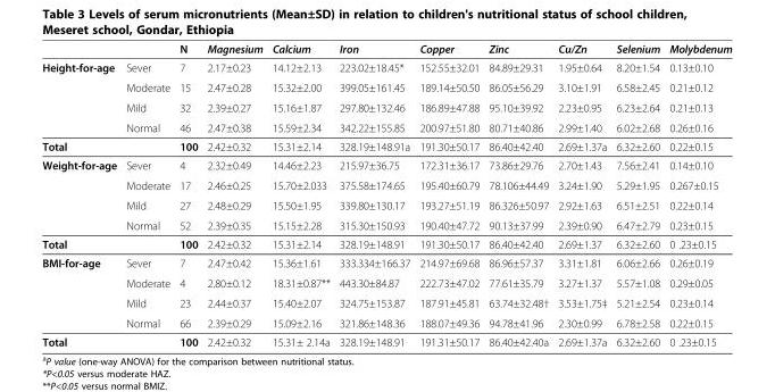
<table><thead><tr><td></td><td></td><td>N</td><td>Magnesium</td><td>Calcium</td><td>Iron</td><td>Copper</td><td>Zinc</td><td>Cu/Zn</td><td>Selenium</td><td>Molybdenum</td></tr></thead><tbody><tr><td rowspan="4">Height-for-age</td><td>Sever</td><td>7</td><td>2.17±0.23</td><td>14.12±2.13</td><td>223.02±18.45*</td><td>152.55±32.01</td><td>84.89±29.31</td><td>1.95±0.64</td><td>8.20±1.54</td><td>0.13±0.10</td></tr><tr><td>Moderate</td><td>15</td><td>2.47±0.28</td><td>15.32±2.00</td><td>399.05±161.45</td><td>189.14±50.50</td><td>86.05±56.29</td><td>3.10±1.91</td><td>6.58±2.45</td><td>0.21±0.12</td></tr><tr><td>Mild</td><td>32</td><td>2.39±0.27</td><td>15.16±1.87</td><td>297.80±132.46</td><td>186.89±47.88</td><td>95.10±39.92</td><td>2.23±0.95</td><td>6.23±2.64</td><td>0.21±0.13</td></tr><tr><td>Normal</td><td>46</td><td>2.47±0.38</td><td>15.59±2.34</td><td>342.22±155.85</td><td>200.97±51.80</td><td>80.71±40.86</td><td>2.99±1.40</td><td>6.02±2.68</td><td>0.26±0.16</td></tr><tr><td colspan="2">Total</td><td>100</td><td>2.42±0.32</td><td>15.31±2.14</td><td>328.19±148.91a</td><td>191.30±50.17</td><td>86.40±42.40</td><td>2.69±1.37a</td><td>6.32±2.60</td><td>0.22±0.15</td></tr><tr><td rowspan="4">Weight-for-age</td><td>Sever</td><td>4</td><td>2.32±0.49</td><td>14.46±2.23</td><td>215.97±36.75</td><td>172.31±36.17</td><td>73.86±29.76</td><td>2.70±1.43</td><td>7.56±2.41</td><td>0.14±0.10</td></tr><tr><td>Moderate</td><td>17</td><td>2.46±0.25</td><td>15.70±2.033</td><td>375.58±174.65</td><td>195.40±60.79</td><td>78.106±44.49</td><td>3.24±1.90</td><td>5.29±1.95</td><td>0.267±0.15</td></tr><tr><td>Mild</td><td>27</td><td>2.48±0.29</td><td>15.50±1.95</td><td>339.80±130.17</td><td>193.27±51.19</td><td>86.326±50.97</td><td>2.92±1.63</td><td>6.51±2.51</td><td>0.22±0.14</td></tr><tr><td>Normal</td><td>52</td><td>2.39±0.35</td><td>15.15±2.28</td><td>315.30±150.93</td><td>190.40±47.72</td><td>90.13±37.99</td><td>2.39±0.90</td><td>6.47±2.79</td><td>0.23±0.15</td></tr><tr><td colspan="2">Total</td><td>100</td><td>2.42±0.32</td><td>15.31±2.14</td><td>328.19±148.91</td><td>191.30±50.17</td><td>86.40±42.40</td><td>2.69±1.37</td><td>6.32±2.60</td><td>0 .23±0.15</td></tr><tr><td rowspan="4">BMI-for-age</td><td>Sever</td><td>7</td><td>2.47±0.42</td><td>15.36±1.61</td><td>333.334±166.37</td><td>214.97±69.68</td><td>86.96±57.37</td><td>3.31±1.81</td><td>6.06±2.66</td><td>0.26±0.19</td></tr><tr><td>Moderate</td><td>4</td><td>2.80±0.12</td><td>18.31±0.87**</td><td>443.30±84.87</td><td>222.73±47.02</td><td>77.61±35.79</td><td>3.27±1.37</td><td>5.57±1.08</td><td>0.29±0.05</td></tr><tr><td>Mild</td><td>23</td><td>2.44±0.37</td><td>15.40±2.07</td><td>324.75±153.87</td><td>187.91±45.81</td><td>63.74±32.48†</td><td>3.53±1.75‡</td><td>5.21±2.54</td><td>0.23±0.14</td></tr><tr><td>Normal</td><td>66</td><td>2.39±0.29</td><td>15.09±2.16</td><td>321.86±148.36</td><td>188.07±49.36</td><td>94.78±41.96</td><td>2.30±0.99</td><td>6.78±2.58</td><td>0.22±0.15</td></tr><tr><td colspan="2">Total</td><td>100</td><td>2.42±0.32</td><td>15.31± 2.14a</td><td>328.19±148.91</td><td>191.31±50.17</td><td>86.40±42.40a</td><td>2.69±1.37a</td><td>6.32±2.60</td><td>0 .23±0.15</td></tr></tbody></table>